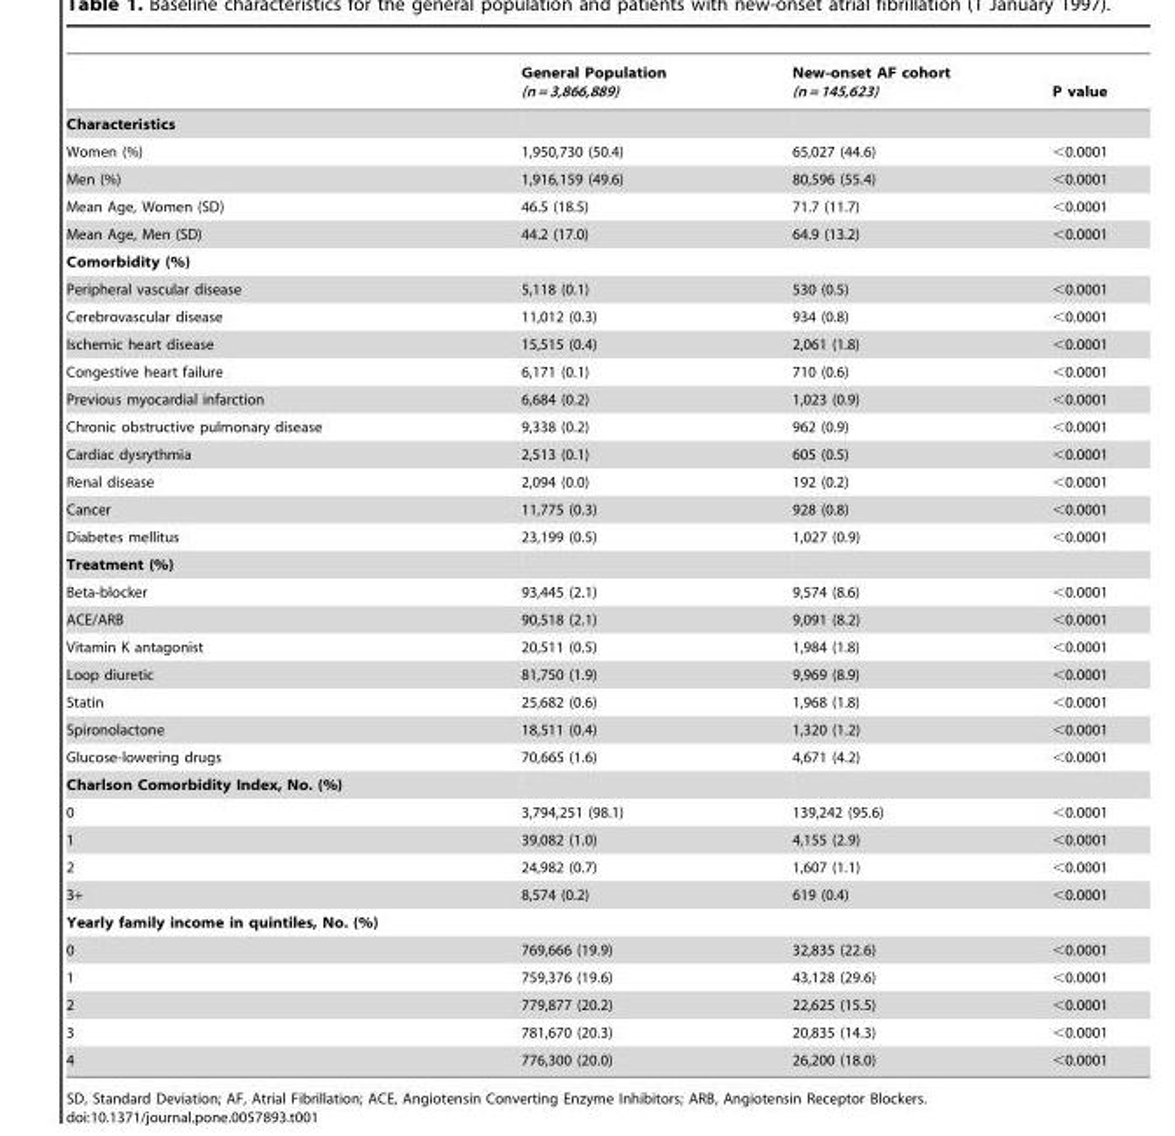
<table><thead><tr><td></td><td>General Population (n = 3,866,889)</td><td>New-onset AF cohort (n = 145,623)</td><td>P value</td></tr></thead><tbody><tr><td colspan="4">Characteristics</td></tr><tr><td>Women (%)</td><td>1,950,730 (50.4)</td><td>65,027 (44.6)</td><td>&lt;0.0001</td></tr><tr><td>Men (%)</td><td>1,916,159 (49.6)</td><td>80,596 (55.4)</td><td>&lt;0.0001</td></tr><tr><td>Mean Age, Women (SD)</td><td>46.5 (18.5)</td><td>71.7 (11.7)</td><td>&lt;0.0001</td></tr><tr><td>Mean Age, Men (SD)</td><td>44.2 (17.0)</td><td>64.9 (13.2)</td><td>&lt;0.0001</td></tr><tr><td colspan="4">Comorbidity (%)</td></tr><tr><td>Peripheral vascular disease</td><td>5,118 (0.1)</td><td>530 (0.5)</td><td>&lt;0.0001</td></tr><tr><td>Cerebrovascular disease</td><td>11,012 (0.3)</td><td>934 (0.8)</td><td>&lt;0.0001</td></tr><tr><td>Ischemic heart disease</td><td>15,515 (0.4)</td><td>2,061 (1.8)</td><td>&lt;0.0001</td></tr><tr><td>Congestive heart failure</td><td>6,171 (0.1)</td><td>710 (0.6)</td><td>&lt;0.0001</td></tr><tr><td>Previous myocardial infarction</td><td>6,684 (0.2)</td><td>1,023 (0.9)</td><td>&lt;0.0001</td></tr><tr><td>Chronic obstructive pulmonary disease</td><td>9,338 (0.2)</td><td>962 (0.9)</td><td>&lt;0.0001</td></tr><tr><td>Cardiac dysrythmia</td><td>2,513 (0.1)</td><td>605 (0.5)</td><td>&lt;0.0001</td></tr><tr><td>Renal disease</td><td>2,094 (0.0)</td><td>192 (0.2)</td><td>&lt;0.0001</td></tr><tr><td>Cancer</td><td>11,775 (0.3)</td><td>928 (0.8)</td><td>&lt;0.0001</td></tr><tr><td>Diabetes mellitus</td><td>23,199 (0.5)</td><td>1,027 (0.9)</td><td>&lt;0.0001</td></tr><tr><td colspan="4">Treatment (%)</td></tr><tr><td>Beta-blocker</td><td>93,445 (2.1)</td><td>9,574 (8.6)</td><td>&lt;0.0001</td></tr><tr><td>ACE/ARB</td><td>90,518 (2.1)</td><td>9,091 (8.2)</td><td>&lt;0.0001</td></tr><tr><td>Vitamin K antagonist</td><td>20,511 (0.5)</td><td>1,984 (1.8)</td><td>&lt;0.0001</td></tr><tr><td>Loop diuretic</td><td>81,750 (1.9)</td><td>9,969 (8.9)</td><td>&lt;0.0001</td></tr><tr><td>Statin</td><td>25,682 (0.6)</td><td>1,968 (1.8)</td><td>&lt;0.0001</td></tr><tr><td>Spironolactone</td><td>18,511 (0.4)</td><td>1,320 (1.2)</td><td>&lt;0.0001</td></tr><tr><td>Glucose-lowering drugs</td><td>70,665 (1.6)</td><td>4,671 (4.2)</td><td>&lt;0.0001</td></tr><tr><td colspan="4">Charlson Comorbidity Index, No. (%)</td></tr><tr><td>0</td><td>3,794,251 (98.1)</td><td>139,242 (95.6)</td><td>&lt;0.0001</td></tr><tr><td>1</td><td>39,082 (1.0)</td><td>4,155 (2.9)</td><td>&lt;0.0001</td></tr><tr><td>2</td><td>24,982 (0.7)</td><td>1,607 (1.1)</td><td>&lt;0.0001</td></tr><tr><td>3+</td><td>8,574 (0.2)</td><td>619 (0.4)</td><td>&lt;0.0001</td></tr><tr><td colspan="4">Yearly family income in quintiles, No. (%)</td></tr><tr><td>0</td><td>769,666 (19.9)</td><td>32,835 (22.6)</td><td>&lt;0.0001</td></tr><tr><td>1</td><td>759,376 (19.6)</td><td>43,128 (29.6)</td><td>&lt;0.0001</td></tr><tr><td>2</td><td>779,877 (20.2)</td><td>22,625 (15.5)</td><td>&lt;0.0001</td></tr><tr><td>3</td><td>781,670 (20.3)</td><td>20,835 (14.3)</td><td>&lt;0.0001</td></tr><tr><td>4</td><td>776,300 (20.0)</td><td>26,200 (18.0)</td><td>&lt;0.0001</td></tr></tbody></table>